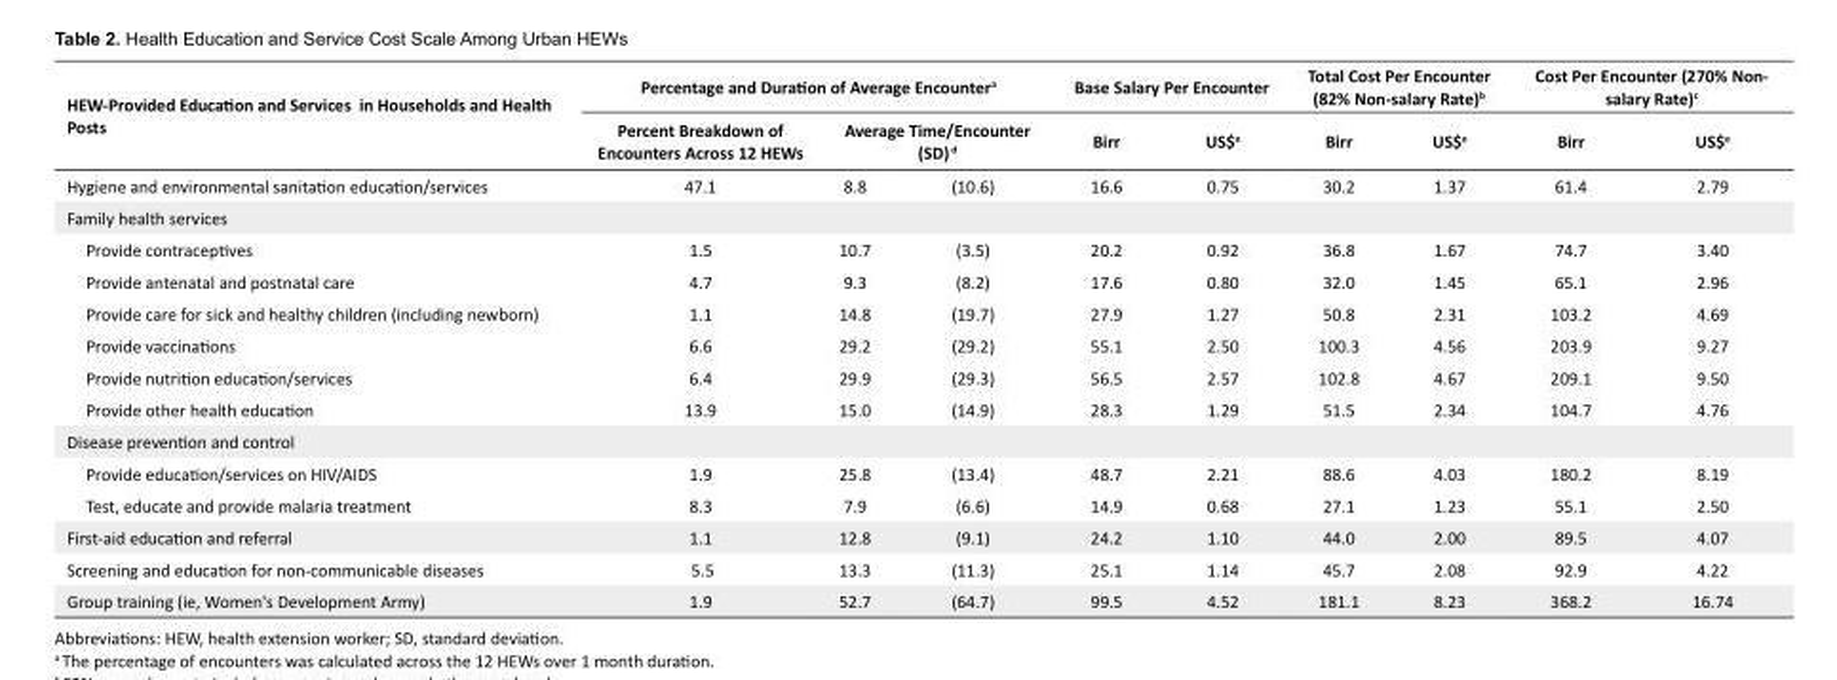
<table><tbody><tr><td rowspan="2">HEW-Provided Education and Services in Households and Health Posts</td><td colspan="3">Percentage and Duration of Average Encounter<sup>a</sup></td><td colspan="2">Base Salary Per Encounter</td><td colspan="2">Total Cost Per Encounter (82% Non-salary Rate)<sup>b</sup></td><td colspan="2">Cost Per Encounter (270% Non- salary Rate)<sup>c</sup></td></tr><tr><td>Percent Breakdown of Encounters Across 12 HEWs</td><td colspan="2">Average Time/Encounter (SD) <sup>d</sup></td><td>Birr</td><td>US$<sup>e</sup></td><td>Birr</td><td>US$<sup>e</sup></td><td>Birr</td><td>US$<sup>e</sup></td></tr><tr><td>Hygiene and environmental sanitation education/services</td><td>47.1</td><td>8.8</td><td>(10.6)</td><td>16.6</td><td>0.75</td><td>30.2</td><td>1.37</td><td>61.4</td><td>2.79</td></tr><tr><td colspan="10">Family health services</td></tr><tr><td>Provide contraceptives</td><td>1.5</td><td>10.7</td><td>(3.5)</td><td>20.2</td><td>0.92</td><td>36.8</td><td>1.67</td><td>74.7</td><td>3.40</td></tr><tr><td>Provide antenatal and postnatal care</td><td>4.7</td><td>9.3</td><td>(8.2)</td><td>17.6</td><td>0.80</td><td>32.0</td><td>1.45</td><td>65.1</td><td>2.96</td></tr><tr><td>Provide care for sick and healthy children (including newborn)</td><td>1.1</td><td>14.8</td><td>(19.7)</td><td>27.9</td><td>1.27</td><td>50.8</td><td>2.31</td><td>103.2</td><td>4.69</td></tr><tr><td>Provide vaccinations</td><td>6.6</td><td>29.2</td><td>(29.2)</td><td>55.1</td><td>2.50</td><td>100.3</td><td>4.56</td><td>203.9</td><td>9.27</td></tr><tr><td>Provide nutrition education/services</td><td>6.4</td><td>29.9</td><td>(29.3)</td><td>56.5</td><td>2.57</td><td>102.8</td><td>4.67</td><td>209.1</td><td>9.50</td></tr><tr><td>Provide other health education</td><td>13.9</td><td>15.0</td><td>(14.9)</td><td>28.3</td><td>1.29</td><td>51.5</td><td>2.34</td><td>104.7</td><td>4.76</td></tr><tr><td colspan="10">Disease prevention and control</td></tr><tr><td>Provide education/services on HIV/AIDS</td><td>1.9</td><td>25.8</td><td>(13.4)</td><td>48.7</td><td>2.21</td><td>88.6</td><td>4.03</td><td>180.2</td><td>8.19</td></tr><tr><td>Test, educate and provide malaria treatment</td><td>8.3</td><td>7.9</td><td>(6.6)</td><td>14.9</td><td>0.68</td><td>27.1</td><td>1.23</td><td>55.1</td><td>2.50</td></tr><tr><td>First-aid education and referral</td><td>1.1</td><td>12.8</td><td>(9.1)</td><td>24.2</td><td>1.10</td><td>44.0</td><td>2.00</td><td>89.5</td><td>4.07</td></tr><tr><td>Screening and education for non-communicable diseases</td><td>5.5</td><td>13.3</td><td>(11.3)</td><td>25.1</td><td>1.14</td><td>45.7</td><td>2.08</td><td>92.9</td><td>4.22</td></tr><tr><td>Group training (ie, Women&#x27;s Development Army)</td><td>1.9</td><td>52.7</td><td>(64.7)</td><td>99.5</td><td>4.52</td><td>181.1</td><td>8.23</td><td>368.2</td><td>16.74</td></tr></tbody></table>